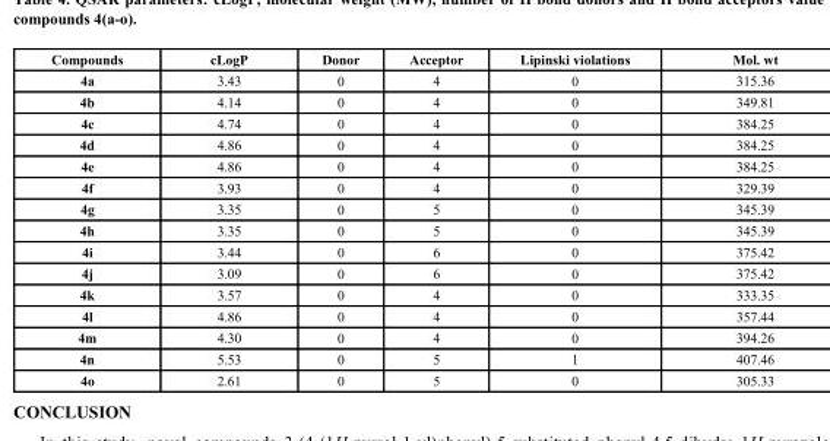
<table><thead><tr><td>Compounds</td><td>cLogP</td><td>Donor</td><td>Acceptor</td><td>Lipinski violations</td><td>Mol. wt</td></tr></thead><tbody><tr><td>4a</td><td>3.43</td><td>0</td><td>4</td><td>0</td><td>315.36</td></tr><tr><td>4b</td><td>4.14</td><td>0</td><td>4</td><td>0</td><td>349.81</td></tr><tr><td>4c</td><td>4.74</td><td>0</td><td>4</td><td>0</td><td>384.25</td></tr><tr><td>4d</td><td>4.86</td><td>0</td><td>4</td><td>0</td><td>384.25</td></tr><tr><td>4e</td><td>4.86</td><td>0</td><td>4</td><td>0</td><td>384.25</td></tr><tr><td>4f</td><td>3.93</td><td>0</td><td>4</td><td>0</td><td>329.39</td></tr><tr><td>4g</td><td>3.35</td><td>0</td><td>5</td><td>0</td><td>345.39</td></tr><tr><td>4h</td><td>3.35</td><td>0</td><td>5</td><td>0</td><td>345.39</td></tr><tr><td>4i</td><td>3.44</td><td>0</td><td>6</td><td>0</td><td>375.42</td></tr><tr><td>4j</td><td>3.09</td><td>0</td><td>6</td><td>0</td><td>375.42</td></tr><tr><td>4k</td><td>3.57</td><td>0</td><td>4</td><td>0</td><td>333.35</td></tr><tr><td>4l</td><td>4.86</td><td>0</td><td>4</td><td>0</td><td>357.44</td></tr><tr><td>4m</td><td>4.30</td><td>0</td><td>4</td><td>0</td><td>394.26</td></tr><tr><td>4n</td><td>5.53</td><td>0</td><td>5</td><td>1</td><td>407.46</td></tr><tr><td>4o</td><td>2.61</td><td>0</td><td>5</td><td>0</td><td>305.33</td></tr></tbody></table>